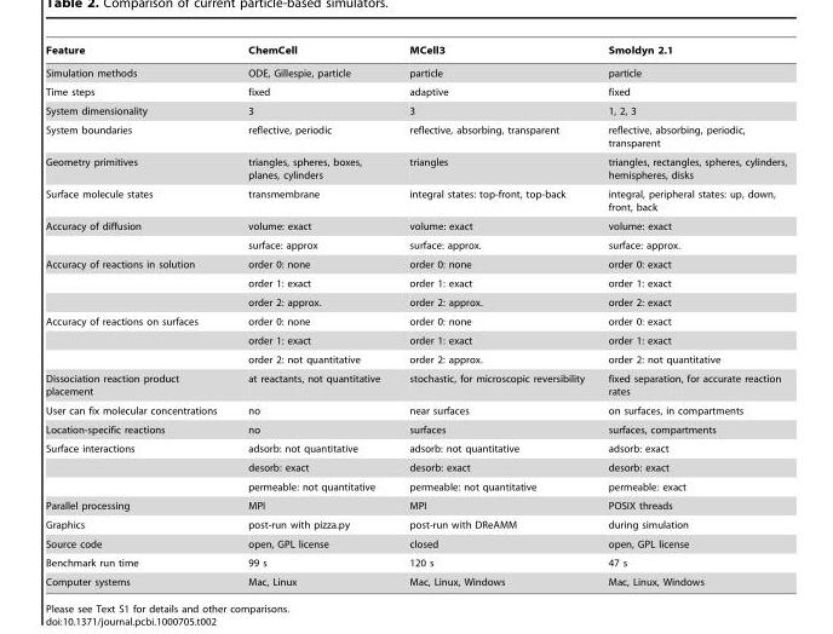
<table><thead><tr><td>Feature</td><td>ChemCell</td><td>MCell3</td><td>Smoldyn 2.1</td></tr></thead><tbody><tr><td>Simulation methods</td><td>ODE, Gillespie, particle</td><td>particle</td><td>particle</td></tr><tr><td>Time steps</td><td>fixed</td><td>adaptive</td><td>fixed</td></tr><tr><td>System dimensionality</td><td>3</td><td>3</td><td>1, 2, 3</td></tr><tr><td>System boundaries</td><td>reflective, periodic</td><td>reflective, absorbing, transparent</td><td>reflective, absorbing, periodic, transparent</td></tr><tr><td>Geometry primitives</td><td>triangles, spheres, boxes, planes, cylinders</td><td>triangles</td><td>triangles, rectangles, spheres, cylinders, hemispheres, disks</td></tr><tr><td>Surface molecule states</td><td>transmembrane</td><td>integral states: top-front, top-back</td><td>integral, peripheral states: up, down, front, back</td></tr><tr><td rowspan="2">Accuracy of diffusion</td><td>volume: exact</td><td>volume: exact</td><td>volume: exact</td></tr><tr><td>surface: approx</td><td>surface: approx.</td><td>surface: approx.</td></tr><tr><td rowspan="3">Accuracy of reactions in solution</td><td>order 0: none</td><td>order 0: none</td><td>order 0: exact</td></tr><tr><td>order 1: exact</td><td>order 1: exact</td><td>order 1: exact</td></tr><tr><td>order 2: approx.</td><td>order 2: approx.</td><td>order 2: exact</td></tr><tr><td rowspan="3">Accuracy of reactions on surfaces</td><td>order 0: none</td><td>order 0: none</td><td>order 0: exact</td></tr><tr><td>order 1: exact</td><td>order 1: exact</td><td>order 1: exact</td></tr><tr><td>order 2: not quantitative</td><td>order 2: approx.</td><td>order 2: not quantitative</td></tr><tr><td>Dissociation reaction product placement</td><td>at reactants, not quantitative</td><td>stochastic, for microscopic reversibility</td><td>fixed separation, for accurate reaction rates</td></tr><tr><td>User can fix molecular concentrations</td><td>no</td><td>near surfaces</td><td>on surfaces, in compartments</td></tr><tr><td>Location-specific reactions</td><td>no</td><td>surfaces</td><td>surfaces, compartments</td></tr><tr><td rowspan="3">Surface interactions</td><td>adsorb: not quantitative</td><td>adsorb: not quantitative</td><td>adsorb: exact</td></tr><tr><td>desorb: exact</td><td>desorb: exact</td><td>desorb: exact</td></tr><tr><td>permeable: not quantitative</td><td>permeable: not quantitative</td><td>permeable: exact</td></tr><tr><td>Parallel processing</td><td>MPI</td><td>MPI</td><td>POSIX threads</td></tr><tr><td>Graphics</td><td>post-run with pizza.py</td><td>post-run with DReAMM</td><td>during simulation</td></tr><tr><td>Source code</td><td>open, GPL license</td><td>closed</td><td>open, GPL license</td></tr><tr><td>Benchmark run time</td><td>99 s</td><td>120 s</td><td>47 s</td></tr><tr><td>Computer systems</td><td>Mac, Linux</td><td>Mac, Linux, Windows</td><td>Mac, Linux, Windows</td></tr></tbody></table>